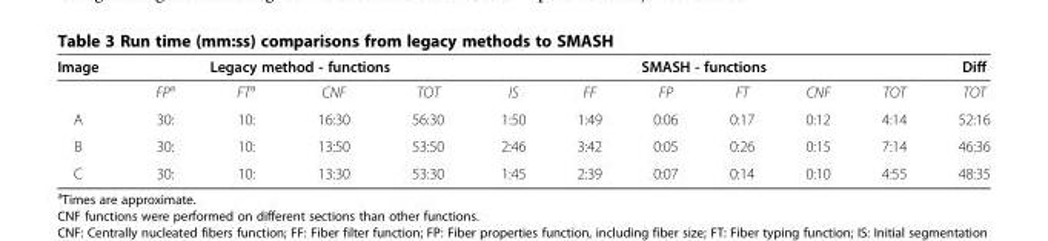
<table><thead><tr><td rowspan="2">Image</td><td colspan="4">Legacy method - functions</td><td colspan="6">SMASH - functions</td><td rowspan="2">Diff TOT</td></tr><tr><td>FP<sup>a</sup></td><td>FT<sup>a</sup></td><td>CNF</td><td>TOT</td><td>IS</td><td>FF</td><td>FP</td><td>FT</td><td>CNF</td><td>TOT</td></tr></thead><tbody><tr><td>A</td><td>30:</td><td>10:</td><td>16:30</td><td>56:30</td><td>1:50</td><td>1:49</td><td>0:06</td><td>0:17</td><td>0:12</td><td>4:14</td><td>52:16</td></tr><tr><td>B</td><td>30:</td><td>10:</td><td>13:50</td><td>53:50</td><td>2:46</td><td>3:42</td><td>0:05</td><td>0:26</td><td>0:15</td><td>7:14</td><td>46:36</td></tr><tr><td>C</td><td>30:</td><td>10:</td><td>13:30</td><td>53:30</td><td>1:45</td><td>2:39</td><td>0:07</td><td>0:14</td><td>0:10</td><td>4:55</td><td>48:35</td></tr></tbody></table>